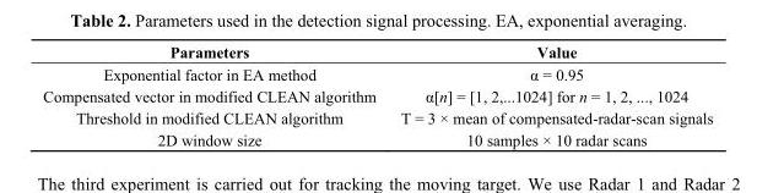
<table><thead><tr><td>Parameters</td><td>Value</td></tr></thead><tbody><tr><td>Exponential factor in EA method</td><td>α = 0.95</td></tr><tr><td>Compensated vector in modified CLEAN algorithm</td><td>α[n] = [1, 2,...1024] for n = 1, 2, ..., 1024</td></tr><tr><td>Threshold in modified CLEAN algorithm</td><td>T = 3 × mean of compensated-radar-scan signals</td></tr><tr><td>2D window size</td><td>10 samples × 10 radar scans</td></tr></tbody></table>